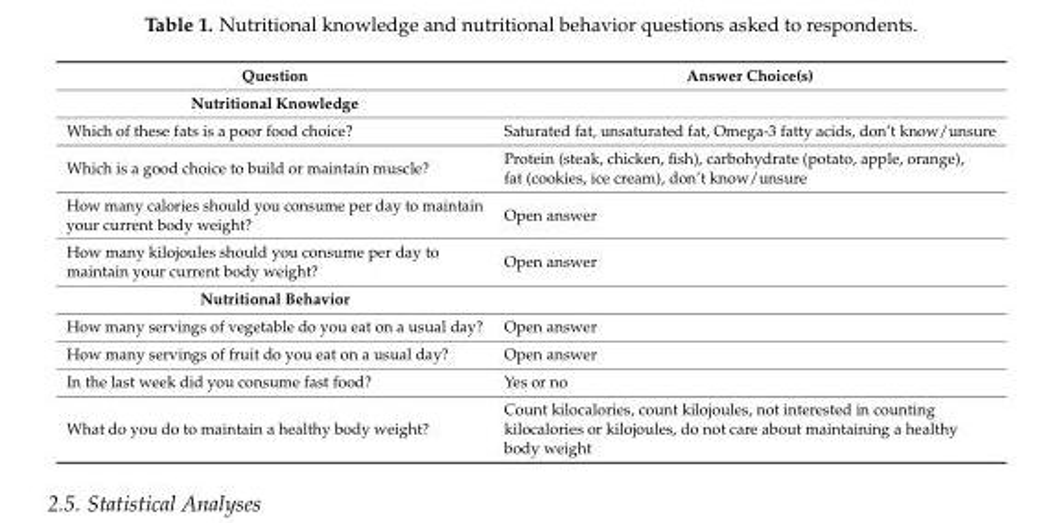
<table><thead><tr><td>Question</td><td>Answer Choice(s)</td></tr></thead><tbody><tr><td colspan="2">Nutritional Knowledge</td></tr><tr><td>Which of these fats is a poor food choice?</td><td>Saturated fat, unsaturated fat, Omega-3 fatty acids, don’t know/unsure</td></tr><tr><td>Which is a good choice to build or maintain muscle?</td><td>Protein (steak, chicken, fish), carbohydrate (potato, apple, orange), fat (cookies, ice cream), don’t know/unsure</td></tr><tr><td>How many calories should you consume per day to maintain your current body weight?</td><td>Open answer</td></tr><tr><td>How many kilojoules should you consume per day to maintain your current body weight?</td><td>Open answer</td></tr><tr><td colspan="2">Nutritional Behavior</td></tr><tr><td>How many servings of vegetable do you eat on a usual day?</td><td>Open answer</td></tr><tr><td>How many servings of fruit do you eat on a usual day?</td><td>Open answer</td></tr><tr><td>In the last week did you consume fast food?</td><td>Yes or no</td></tr><tr><td>What do you do to maintain a healthy body weight?</td><td>Count kilocalories, count kilojoules, not interested in counting kilocalories or kilojoules, do not care about maintaining a healthy body weight</td></tr></tbody></table>